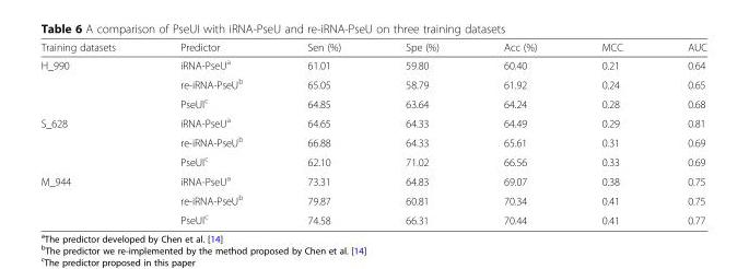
<table><thead><tr><td>Training datasets</td><td>Predictor</td><td>Sen (%)</td><td>Spe (%)</td><td>Acc (%)</td><td>MCC</td><td>AUC</td></tr></thead><tbody><tr><td rowspan="3">H_990</td><td>iRNA-PseU<sup>a</sup></td><td>61.01</td><td>59.80</td><td>60.40</td><td>0.21</td><td>0.64</td></tr><tr><td>re-iRNA-PseU<sup>b</sup></td><td>65.05</td><td>58.79</td><td>61.92</td><td>0.24</td><td>0.65</td></tr><tr><td>PseUI<sup>c</sup></td><td>64.85</td><td>63.64</td><td>64.24</td><td>0.28</td><td>0.68</td></tr><tr><td rowspan="3">S_628</td><td>iRNA-PseU<sup>a</sup></td><td>64.65</td><td>64.33</td><td>64.49</td><td>0.29</td><td>0.81</td></tr><tr><td>re-iRNA-PseU<sup>b</sup></td><td>66.88</td><td>64.33</td><td>65.61</td><td>0.31</td><td>0.69</td></tr><tr><td>PseUI<sup>c</sup></td><td>62.10</td><td>71.02</td><td>66.56</td><td>0.33</td><td>0.69</td></tr><tr><td rowspan="3">M_944</td><td>iRNA-PseU<sup>a</sup></td><td>73.31</td><td>64.83</td><td>69.07</td><td>0.38</td><td>0.75</td></tr><tr><td>re-iRNA-PseU<sup>b</sup></td><td>79.87</td><td>60.81</td><td>70.34</td><td>0.41</td><td>0.75</td></tr><tr><td>PseUI<sup>c</sup></td><td>74.58</td><td>66.31</td><td>70.44</td><td>0.41</td><td>0.77</td></tr></tbody></table>